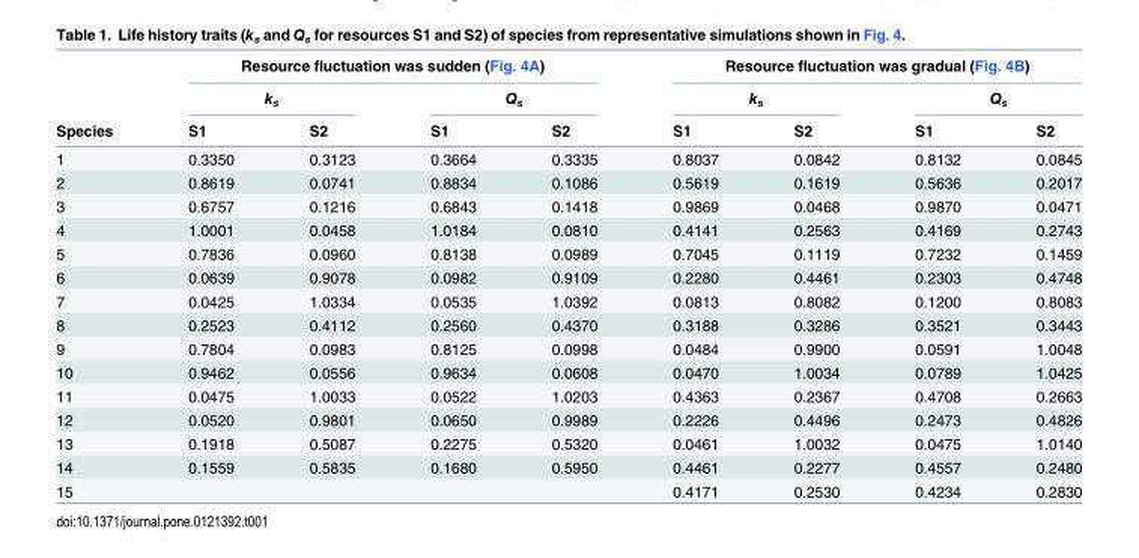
<table><thead><tr><td rowspan="3">Species</td><td colspan="4">Resource fluctuation was sudden (Fig. 4A)</td><td colspan="4">Resource fluctuation was gradual (Fig. 4B)</td></tr><tr><td colspan="2">k<sub>s</sub></td><td colspan="2">Q<sub>s</sub></td><td colspan="2">k<sub>s</sub></td><td colspan="2">Q<sub>s</sub></td></tr><tr><td>S1</td><td>S2</td><td>S1</td><td>S2</td><td>S1</td><td>S2</td><td>S1</td><td>S2</td></tr></thead><tbody><tr><td>1</td><td>0.3350</td><td>0.3123</td><td>0.3664</td><td>0.3335</td><td>0.8037</td><td>0.0842</td><td>0.8132</td><td>0.0845</td></tr><tr><td>2</td><td>0.8619</td><td>0.0741</td><td>0.8834</td><td>0.1086</td><td>0.5619</td><td>0.1619</td><td>0.5636</td><td>0.2017</td></tr><tr><td>3</td><td>0.6757</td><td>0.1216</td><td>0.6843</td><td>0.1418</td><td>0.9869</td><td>0.0468</td><td>0.9870</td><td>0.0471</td></tr><tr><td>4</td><td>1.0001</td><td>0.0458</td><td>1.0184</td><td>0.0810</td><td>0.4141</td><td>0.2563</td><td>0.4169</td><td>0.2743</td></tr><tr><td>5</td><td>0.7836</td><td>0.0960</td><td>0.8138</td><td>0.0989</td><td>0.7045</td><td>0.1119</td><td>0.7232</td><td>0.1459</td></tr><tr><td>6</td><td>0.0639</td><td>0.9078</td><td>0.0982</td><td>0.9109</td><td>0.2280</td><td>0.4461</td><td>0.2303</td><td>0.4748</td></tr><tr><td>7</td><td>0.0425</td><td>1.0334</td><td>0.0535</td><td>1.0392</td><td>0.0813</td><td>0.8082</td><td>0.1200</td><td>0.8083</td></tr><tr><td>8</td><td>0.2523</td><td>0.4112</td><td>0.2560</td><td>0.4370</td><td>0.3188</td><td>0.3286</td><td>0.3521</td><td>0.3443</td></tr><tr><td>9</td><td>0.7804</td><td>0.0983</td><td>0.8125</td><td>0.0998</td><td>0.0484</td><td>0.9900</td><td>0.0591</td><td>1.0048</td></tr><tr><td>10</td><td>0.9462</td><td>0.0556</td><td>0.9634</td><td>0.0608</td><td>0.0470</td><td>1.0034</td><td>0.0789</td><td>1.0425</td></tr><tr><td>11</td><td>0.0475</td><td>1.0033</td><td>0.0522</td><td>1.0203</td><td>0.4363</td><td>0.2367</td><td>0.4708</td><td>0.2663</td></tr><tr><td>12</td><td>0.0520</td><td>0.9801</td><td>0.0650</td><td>0.9989</td><td>0.2226</td><td>0.4496</td><td>0.2473</td><td>0.4826</td></tr><tr><td>13</td><td>0.1918</td><td>0.5087</td><td>0.2275</td><td>0.5320</td><td>0.0461</td><td>1.0032</td><td>0.0475</td><td>1.0140</td></tr><tr><td>14</td><td>0.1559</td><td>0.5835</td><td>0.1680</td><td>0.5950</td><td>0.4461</td><td>0.2277</td><td>0.4557</td><td>0.2480</td></tr><tr><td>15</td><td></td><td></td><td></td><td></td><td>0.4171</td><td>0.2530</td><td>0.4234</td><td>0.2830</td></tr></tbody></table>